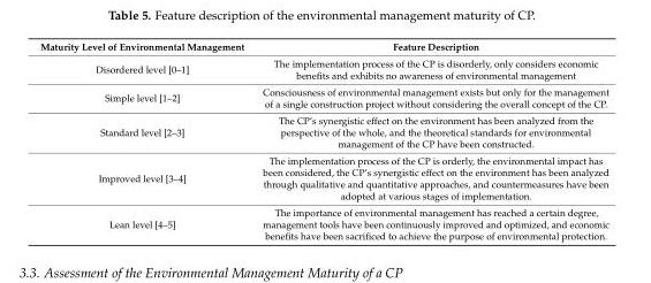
<table><thead><tr><td>Maturity Level of Environmental Management</td><td>Feature Description</td></tr></thead><tbody><tr><td>Disordered level [0–1]</td><td>The implementation process of the CP is disorderly, only considers economic benefits and exhibits no awareness of environmental management</td></tr><tr><td>Simple level [1–2]</td><td>Consciousness of environmental management exists but only for the management of a single construction project without considering the overall concept of the CP.</td></tr><tr><td>Standard level [2–3]</td><td>The CP’s synergistic effect on the environment has been analyzed from the perspective of the whole, and the theoretical standards for environmental management of the CP have been constructed.</td></tr><tr><td>Improved level [3–4]</td><td>The implementation process of the CP is orderly, the environmental impact has been considered, the CP’s synergistic effect on the environment has been analyzed through qualitative and quantitative approaches, and countermeasures have been adopted at various stages of implementation.</td></tr><tr><td>Lean level [4–5]</td><td>The importance of environmental management has reached a certain degree, management tools have been continuously improved and optimized, and economic benefits have been sacrificed to achieve the purpose of environmental protection.</td></tr></tbody></table>